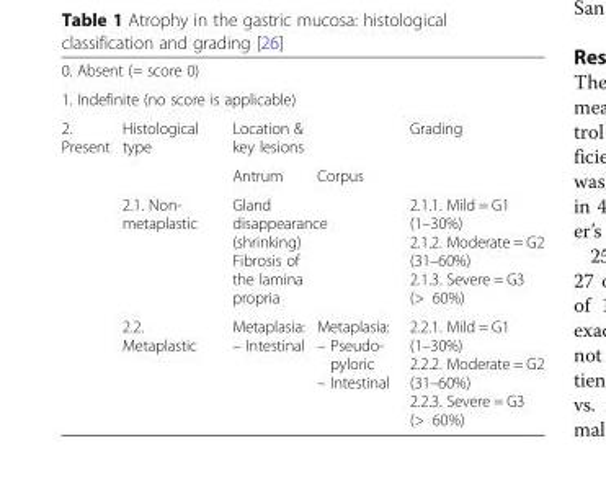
<table><tbody><tr><td colspan="5">0. Absent (= score 0)</td></tr><tr><td colspan="5">1. Indefinite (no score is applicable)</td></tr><tr><td rowspan="4">2. Present</td><td rowspan="2">Histological type</td><td colspan="2">Location &amp; key lesions</td><td rowspan="2">Grading</td></tr><tr><td>Antrum</td><td>Corpus</td></tr><tr><td>2.1. Non- metaplastic</td><td colspan="2">Gland disappearance (shrinking) Fibrosis of the lamina propria</td><td>2.1.1. Mild = G1 (1–30%) 2.1.2. Moderate = G2 (31–60%) 2.1.3. Severe = G3 (&gt; 60%)</td></tr><tr><td>2.2. Metaplastic</td><td>Metaplasia: – Intestinal</td><td>Metaplasia: – Pseudo- pyloric – Intestinal</td><td>2.2.1. Mild = G1 (1–30%) 2.2.2. Moderate = G2 (31–60%) 2.2.3. Severe = G3 (&gt; 60%)</td></tr></tbody></table>